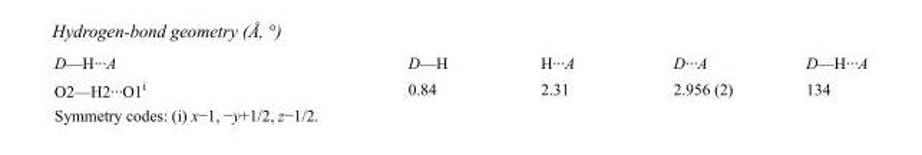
<table><tbody><tr><td>D—H···A</td><td>D—H</td><td>H···A</td><td>D···A</td><td>D—H···A</td></tr><tr><td>O2—H2···O1<sup>i</sup></td><td>0.84</td><td>2.31</td><td>2.956 (2)</td><td>134</td></tr></tbody></table>